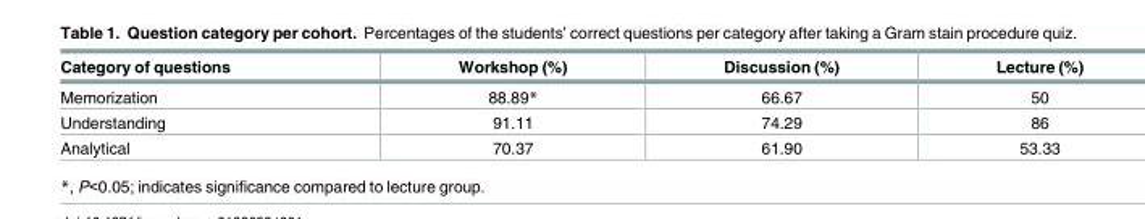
<table><thead><tr><td>Category of questions</td><td>Workshop (%)</td><td>Discussion (%)</td><td>Lecture (%)</td></tr></thead><tbody><tr><td>Memorization</td><td>88.89*</td><td>66.67</td><td>50</td></tr><tr><td>Understanding</td><td>91.11</td><td>74.29</td><td>86</td></tr><tr><td>Analytical</td><td>70.37</td><td>61.90</td><td>53.33</td></tr></tbody></table>